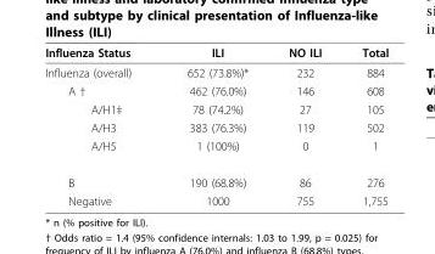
<table><thead><tr><td>Influenza Status</td><td>ILI</td><td>NO ILI</td><td>Total</td></tr></thead><tbody><tr><td>Influenza (overall)</td><td>652 (73.8%)*</td><td>232</td><td>884</td></tr><tr><td>A †</td><td>462 (76.0%)</td><td>146</td><td>608</td></tr><tr><td>A/H1‡</td><td>78 (74.2%)</td><td>27</td><td>105</td></tr><tr><td>A/H3</td><td>383 (76.3%)</td><td>119</td><td>502</td></tr><tr><td>A/H5</td><td>1 (100%)</td><td>0</td><td>1</td></tr><tr><td>B</td><td>190 (68.8%)</td><td>86</td><td>276</td></tr><tr><td>Negative</td><td>1000</td><td>755</td><td>1,755</td></tr></tbody></table>